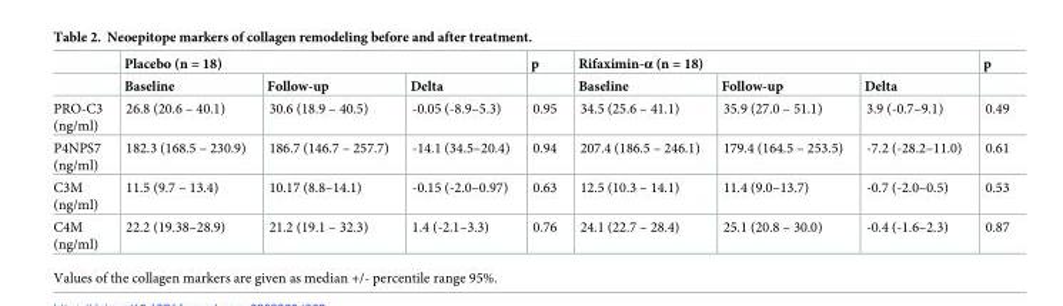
<table><thead><tr><td rowspan="2"></td><td colspan="3">Placebo (n = 18)</td><td rowspan="2">p</td><td colspan="3">Rifaximin-α (n = 18)</td><td rowspan="2">p</td></tr><tr><td>Baseline</td><td>Follow-up</td><td>Delta</td><td>Baseline</td><td>Follow-up</td><td>Delta</td></tr></thead><tbody><tr><td>PRO-C3 (ng/ml)</td><td>26.8 (20.6 – 40.1)</td><td>30.6 (18.9 – 40.5)</td><td>-0.05 (-8.9–5.3)</td><td>0.95</td><td>34.5 (25.6 – 41.1)</td><td>35.9 (27.0 – 51.1)</td><td>3.9 (-0.7–9.1)</td><td>0.49</td></tr><tr><td>P4NPS7 (ng/ml)</td><td>182.3 (168.5 – 230.9)</td><td>186.7 (146.7 – 257.7)</td><td>-14.1 (34.5–20.4)</td><td>0.94</td><td>207.4 (186.5 – 246.1)</td><td>179.4 (164.5 – 253.5)</td><td>-7.2 (-28.2–11.0)</td><td>0.61</td></tr><tr><td>C3M (ng/ml)</td><td>11.5 (9.7 – 13.4)</td><td>10.17 (8.8–14.1)</td><td>-0.15 (-2.0–0.97)</td><td>0.63</td><td>12.5 (10.3 – 14.1)</td><td>11.4 (9.0–13.7)</td><td>-0.7 (-2.0–0.5)</td><td>0.53</td></tr><tr><td>C4M (ng/ml)</td><td>22.2 (19.38–28.9)</td><td>21.2 (19.1 – 32.3)</td><td>1.4 (-2.1–3.3)</td><td>0.76</td><td>24.1 (22.7 – 28.4)</td><td>25.1 (20.8 – 30.0)</td><td>-0.4 (-1.6–2.3)</td><td>0.87</td></tr></tbody></table>